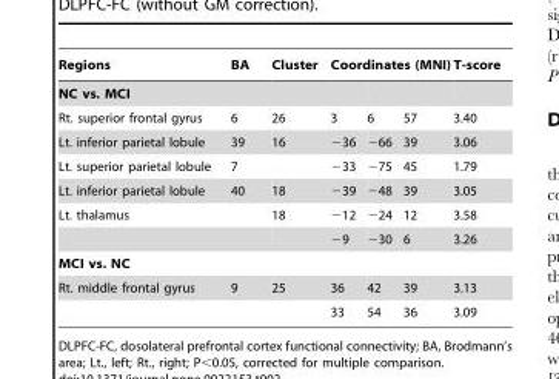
<table><thead><tr><td>Regions</td><td>BA</td><td>Cluster</td><td colspan="3">Coordinates (MNI)</td><td rowspan="2">T-score</td></tr><tr><td colspan="3">NC vs. MCI</td><td></td><td></td><td></td></tr></thead><tbody><tr><td>Rt. superior frontal gyrus</td><td>6</td><td>26</td><td>3</td><td>6</td><td>57</td><td>3.40</td></tr><tr><td>Lt. inferior parietal lobule</td><td>39</td><td>16</td><td>−36</td><td>−66</td><td>39</td><td>3.06</td></tr><tr><td>Lt. superior parietal lobule</td><td>7</td><td></td><td>−33</td><td>−75</td><td>45</td><td>1.79</td></tr><tr><td>Lt. inferior parietal lobule</td><td>40</td><td>18</td><td>−39</td><td>−48</td><td>39</td><td>3.05</td></tr><tr><td rowspan="2">Lt. thalamus</td><td></td><td>18</td><td>−12</td><td>−24</td><td>12</td><td>3.58</td></tr><tr><td></td><td></td><td>−9</td><td>−30</td><td>6</td><td>3.26</td></tr><tr><td colspan="7">MCI vs. NC</td></tr><tr><td rowspan="2">Rt. middle frontal gyrus</td><td>9</td><td>25</td><td>36</td><td>42</td><td>39</td><td>3.13</td></tr><tr><td></td><td></td><td>33</td><td>54</td><td>36</td><td>3.09</td></tr></tbody></table>